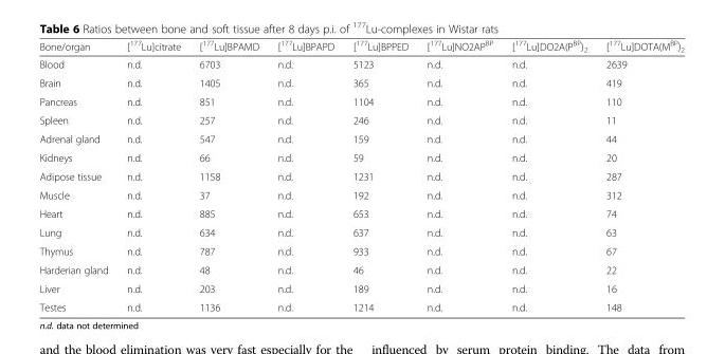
<table><thead><tr><td>Bone/organ</td><td>[<sup>177</sup>Lu]citrate</td><td>[<sup>177</sup>Lu]BPAMD</td><td>[<sup>177</sup>Lu]BPAPD</td><td>[<sup>177</sup>Lu]BPPED</td><td>[<sup>177</sup>Lu]NO2AP<sup>BP</sup></td><td>[<sup>177</sup>Lu]DO2A(P<sup>BP</sup>)<sub>2</sub></td><td>[<sup>177</sup>Lu]DOTA(M<sup>BP</sup>)<sub>2</sub></td></tr></thead><tbody><tr><td>Blood</td><td>n.d.</td><td>6703</td><td>n.d.</td><td>5123</td><td>n.d.</td><td>n.d.</td><td>2639</td></tr><tr><td>Brain</td><td>n.d.</td><td>1405</td><td>n.d.</td><td>365</td><td>n.d.</td><td>n.d.</td><td>419</td></tr><tr><td>Pancreas</td><td>n.d.</td><td>851</td><td>n.d.</td><td>1104</td><td>n.d.</td><td>n.d.</td><td>110</td></tr><tr><td>Spleen</td><td>n.d.</td><td>257</td><td>n.d.</td><td>246</td><td>n.d.</td><td>n.d.</td><td>11</td></tr><tr><td>Adrenal gland</td><td>n.d.</td><td>547</td><td>n.d.</td><td>159</td><td>n.d.</td><td>n.d.</td><td>44</td></tr><tr><td>Kidneys</td><td>n.d.</td><td>66</td><td>n.d.</td><td>59</td><td>n.d.</td><td>n.d.</td><td>20</td></tr><tr><td>Adipose tissue</td><td>n.d.</td><td>1158</td><td>n.d.</td><td>1231</td><td>n.d.</td><td>n.d.</td><td>287</td></tr><tr><td>Muscle</td><td>n.d.</td><td>37</td><td>n.d.</td><td>192</td><td>n.d.</td><td>n.d.</td><td>312</td></tr><tr><td>Heart</td><td>n.d.</td><td>885</td><td>n.d.</td><td>653</td><td>n.d.</td><td>n.d.</td><td>74</td></tr><tr><td>Lung</td><td>n.d.</td><td>634</td><td>n.d.</td><td>637</td><td>n.d.</td><td>n.d.</td><td>63</td></tr><tr><td>Thymus</td><td>n.d.</td><td>787</td><td>n.d.</td><td>933</td><td>n.d.</td><td>n.d.</td><td>67</td></tr><tr><td>Harderian gland</td><td>n.d.</td><td>48</td><td>n.d.</td><td>46</td><td>n.d.</td><td>n.d.</td><td>22</td></tr><tr><td>Liver</td><td>n.d.</td><td>203</td><td>n.d.</td><td>189</td><td>n.d.</td><td>n.d.</td><td>16</td></tr><tr><td>Testes</td><td>n.d.</td><td>1136</td><td>n.d.</td><td>1214</td><td>n.d.</td><td>n.d.</td><td>148</td></tr></tbody></table>